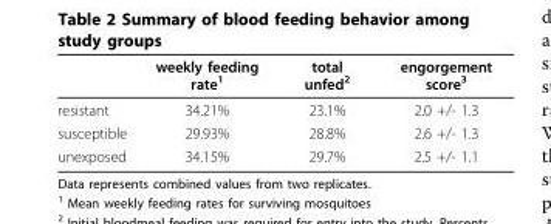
<table><thead><tr><td></td><td>weekly feeding rate<sup>1</sup></td><td>total unfed<sup>2</sup></td><td>engorgement score<sup>3</sup></td></tr></thead><tbody><tr><td>resistant</td><td>34.21%</td><td>23.1%</td><td>2.0 +/- 1.3</td></tr><tr><td>susceptible</td><td>29.93%</td><td>28.8%</td><td>2.6 +/- 1.3</td></tr><tr><td>unexposed</td><td>34.15%</td><td>29.7%</td><td>2.5 +/- 1.1</td></tr></tbody></table>